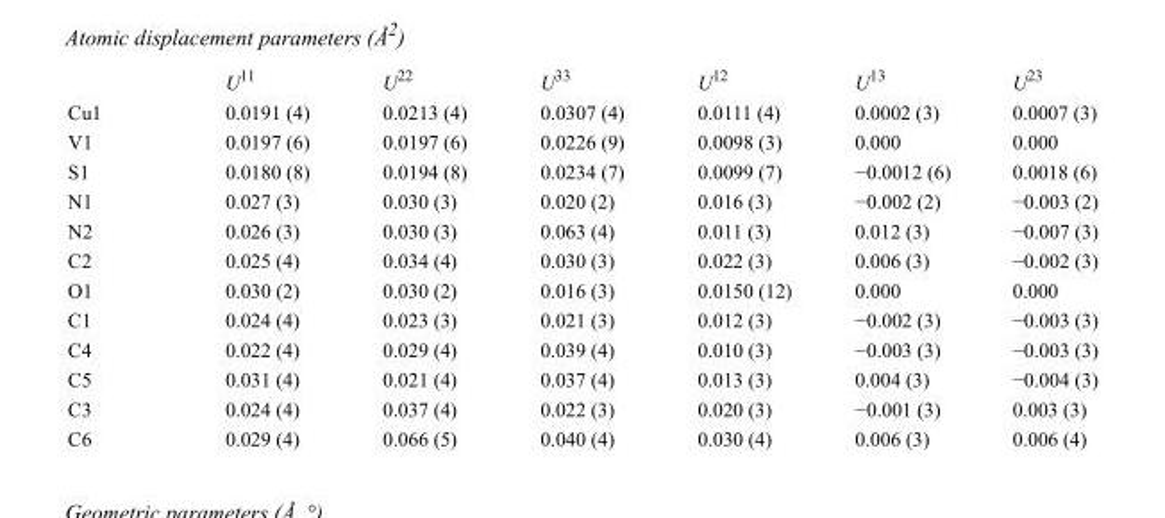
<table><thead><tr><td></td><td>U<sup>11</sup></td><td>U<sup>22</sup></td><td>U<sup>33</sup></td><td>U<sup>12</sup></td><td>U<sup>13</sup></td><td>U<sup>23</sup></td></tr></thead><tbody><tr><td>Cu1</td><td>0.0191 (4)</td><td>0.0213 (4)</td><td>0.0307 (4)</td><td>0.0111 (4)</td><td>0.0002 (3)</td><td>0.0007 (3)</td></tr><tr><td>V1</td><td>0.0197 (6)</td><td>0.0197 (6)</td><td>0.0226 (9)</td><td>0.0098 (3)</td><td>0.000</td><td>0.000</td></tr><tr><td>S1</td><td>0.0180 (8)</td><td>0.0194 (8)</td><td>0.0234 (7)</td><td>0.0099 (7)</td><td>−0.0012 (6)</td><td>0.0018 (6)</td></tr><tr><td>N1</td><td>0.027 (3)</td><td>0.030 (3)</td><td>0.020 (2)</td><td>0.016 (3)</td><td>−0.002 (2)</td><td>−0.003 (2)</td></tr><tr><td>N2</td><td>0.026 (3)</td><td>0.030 (3)</td><td>0.063 (4)</td><td>0.011 (3)</td><td>0.012 (3)</td><td>−0.007 (3)</td></tr><tr><td>C2</td><td>0.025 (4)</td><td>0.034 (4)</td><td>0.030 (3)</td><td>0.022 (3)</td><td>0.006 (3)</td><td>−0.002 (3)</td></tr><tr><td>O1</td><td>0.030 (2)</td><td>0.030 (2)</td><td>0.016 (3)</td><td>0.0150 (12)</td><td>0.000</td><td>0.000</td></tr><tr><td>C1</td><td>0.024 (4)</td><td>0.023 (3)</td><td>0.021 (3)</td><td>0.012 (3)</td><td>−0.002 (3)</td><td>−0.003 (3)</td></tr><tr><td>C4</td><td>0.022 (4)</td><td>0.029 (4)</td><td>0.039 (4)</td><td>0.010 (3)</td><td>−0.003 (3)</td><td>−0.003 (3)</td></tr><tr><td>C5</td><td>0.031 (4)</td><td>0.021 (4)</td><td>0.037 (4)</td><td>0.013 (3)</td><td>0.004 (3)</td><td>−0.004 (3)</td></tr><tr><td>C3</td><td>0.024 (4)</td><td>0.037 (4)</td><td>0.022 (3)</td><td>0.020 (3)</td><td>−0.001 (3)</td><td>0.003 (3)</td></tr><tr><td>C6</td><td>0.029 (4)</td><td>0.066 (5)</td><td>0.040 (4)</td><td>0.030 (4)</td><td>0.006 (3)</td><td>0.006 (4)</td></tr></tbody></table>